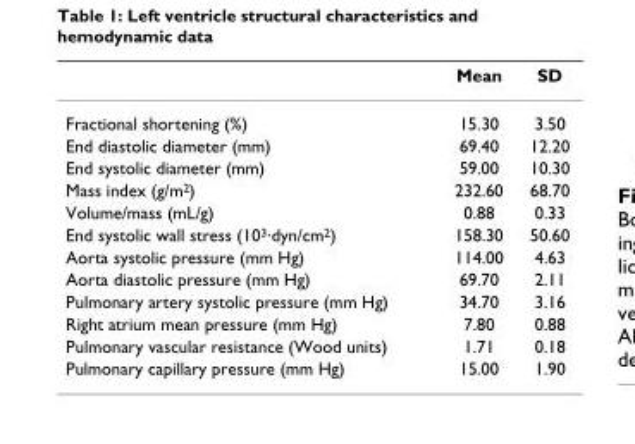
<table><thead><tr><td></td><td>Mean</td><td>SD</td></tr></thead><tbody><tr><td>Fractional shortening (%)</td><td>15.30</td><td>3.50</td></tr><tr><td>End diastolic diameter (mm)</td><td>69.40</td><td>12.20</td></tr><tr><td>End systolic diameter (mm)</td><td>59.00</td><td>10.30</td></tr><tr><td>Mass index (g/m<sup>2</sup>)</td><td>232.60</td><td>68.70</td></tr><tr><td>Volume/mass (mL/g)</td><td>0.88</td><td>0.33</td></tr><tr><td>End systolic wall stress (10<sup>3</sup>·dyn/cm<sup>2</sup>)</td><td>158.30</td><td>50.60</td></tr><tr><td>Aorta systolic pressure (mm Hg)</td><td>114.00</td><td>4.63</td></tr><tr><td>Aorta diastolic pressure (mm Hg)</td><td>69.70</td><td>2.11</td></tr><tr><td>Pulmonary artery systolic pressure (mm Hg)</td><td>34.70</td><td>3.16</td></tr><tr><td>Right atrium mean pressure (mm Hg)</td><td>7.80</td><td>0.88</td></tr><tr><td>Pulmonary vascular resistance (Wood units)</td><td>1.71</td><td>0.18</td></tr><tr><td>Pulmonary capillary pressure (mm Hg)</td><td>15.00</td><td>1.90</td></tr></tbody></table>